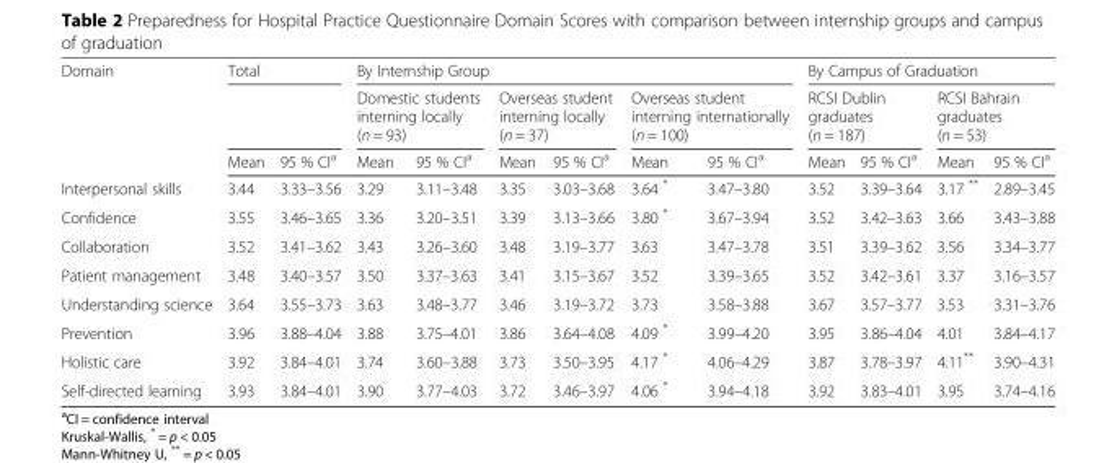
<table><thead><tr><td rowspan="3">Domain</td><td colspan="2">Total</td><td colspan="6">By Internship Group</td><td colspan="4">By Campus of Graduation</td></tr><tr><td rowspan="2">Mean</td><td rowspan="2">95 % CI<sup>a</sup></td><td colspan="2">Domestic students interning locally (n = 93)</td><td colspan="2">Overseas student interning locally (n = 37)</td><td colspan="2">Overseas student interning internationally (n = 100)</td><td colspan="2">RCSI Dublin graduates (n = 187)</td><td colspan="2">RCSI Bahrain graduates (n = 53)</td></tr><tr><td>Mean</td><td>95 % CI<sup>a</sup></td><td>Mean</td><td>95 % CI<sup>a</sup></td><td>Mean</td><td>95 % CI<sup>a</sup></td><td>Mean</td><td>95 % CI<sup>a</sup></td><td>Mean</td><td>95 % CI<sup>a</sup></td></tr></thead><tbody><tr><td>Interpersonal skills</td><td>3.44</td><td>3.33–3.56</td><td>3.29</td><td>3.11–3.48</td><td>3.35</td><td>3.03–3.68</td><td>3.64 *</td><td>3.47–3.80</td><td>3.52</td><td>3.39–3.64</td><td>3.17 **</td><td>2.89–3.45</td></tr><tr><td>Confidence</td><td>3.55</td><td>3.46–3.65</td><td>3.36</td><td>3.20–3.51</td><td>3.39</td><td>3.13–3.66</td><td>3.80 *</td><td>3.67–3.94</td><td>3.52</td><td>3.42–3.63</td><td>3.66</td><td>3.43–3.88</td></tr><tr><td>Collaboration</td><td>3.52</td><td>3.41–3.62</td><td>3.43</td><td>3.26–3.60</td><td>3.48</td><td>3.19–3.77</td><td>3.63</td><td>3.47–3.78</td><td>3.51</td><td>3.39–3.62</td><td>3.56</td><td>3.34–3.77</td></tr><tr><td>Patient management</td><td>3.48</td><td>3.40–3.57</td><td>3.50</td><td>3.37–3.63</td><td>3.41</td><td>3.15–3.67</td><td>3.52</td><td>3.39–3.65</td><td>3.52</td><td>3.42–3.61</td><td>3.37</td><td>3.16–3.57</td></tr><tr><td>Understanding science</td><td>3.64</td><td>3.55–3.73</td><td>3.63</td><td>3.48–3.77</td><td>3.46</td><td>3.19–3.72</td><td>3.73</td><td>3.58–3.88</td><td>3.67</td><td>3.57–3.77</td><td>3.53</td><td>3.31–3.76</td></tr><tr><td>Prevention</td><td>3.96</td><td>3.88–4.04</td><td>3.88</td><td>3.75–4.01</td><td>3.86</td><td>3.64–4.08</td><td>4.09 *</td><td>3.99–4.20</td><td>3.95</td><td>3.86–4.04</td><td>4.01</td><td>3.84–4.17</td></tr><tr><td>Holistic care</td><td>3.92</td><td>3.84–4.01</td><td>3.74</td><td>3.60–3.88</td><td>3.73</td><td>3.50–3.95</td><td>4.17 *</td><td>4.06–4.29</td><td>3.87</td><td>3.78–3.97</td><td>4.11**</td><td>3.90–4.31</td></tr><tr><td>Self-directed learning</td><td>3.93</td><td>3.84–4.01</td><td>3.90</td><td>3.77–4.03</td><td>3.72</td><td>3.46–3.97</td><td>4.06 *</td><td>3.94–4.18</td><td>3.92</td><td>3.83–4.01</td><td>3.95</td><td>3.74–4.16</td></tr></tbody></table>